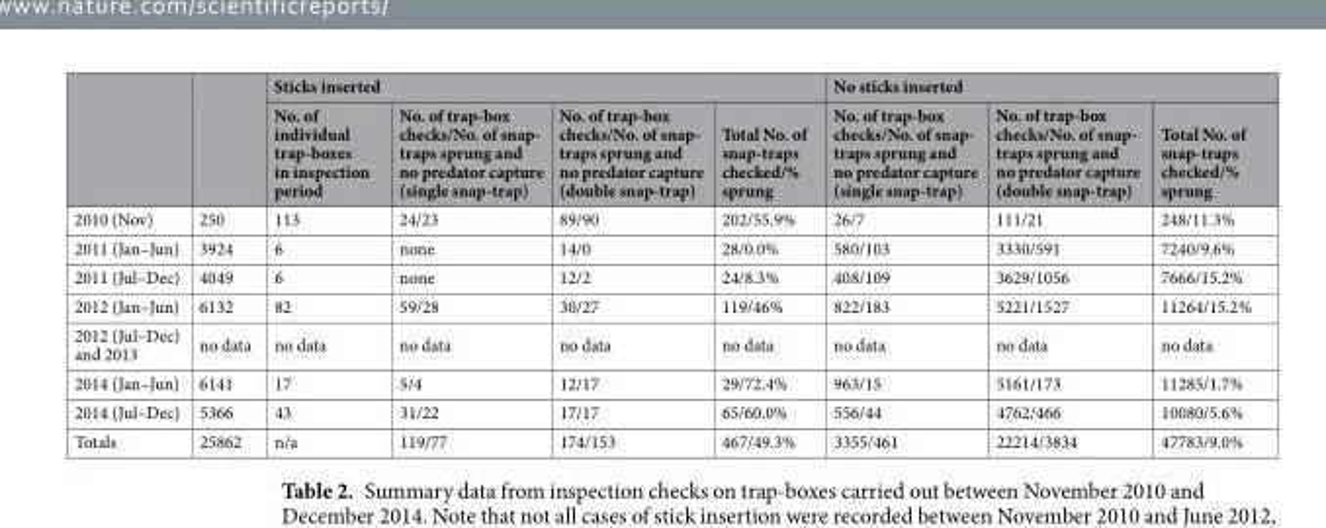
<table><thead><tr><td rowspan="2"></td><td rowspan="2"></td><td colspan="4">Sticks inserted</td><td colspan="3">No sticks inserted</td></tr><tr><td>No. of individual trap-boxes in inspection period</td><td>No. of trap-box checks/No. of snap- traps sprung and no predator capture (single snap-trap)</td><td>No. of trap-box checks/No. of snap- traps sprung and no predator capture (double snap-trap)</td><td>Total No. of snap-traps checked/% sprung</td><td>No. of trap-box checks/No. of snap- traps sprung and no predator capture (single snap-trap)</td><td>No. of trap-box checks/No. of snap- traps sprung and no predator capture (double snap-trap)</td><td>Total No. of snap-traps checked/% sprung</td></tr></thead><tbody><tr><td>2010 (Nov)</td><td>250</td><td>113</td><td>24/23</td><td>89/90</td><td>202/55.9%</td><td>26/7</td><td>111/21</td><td>248/11.3%</td></tr><tr><td>2011 (Jan–Jun)</td><td>3924</td><td>6</td><td>none</td><td>14/0</td><td>28/0.0%</td><td>580/103</td><td>3330/591</td><td>7240/9.6%</td></tr><tr><td>2011 (Jul–Dec)</td><td>4049</td><td>6</td><td>none</td><td>12/2</td><td>24/8.3%</td><td>408/109</td><td>3629/1056</td><td>7666/15.2%</td></tr><tr><td>2012 (Jan–Jun)</td><td>6132</td><td>82</td><td>59/28</td><td>30/27</td><td>119/46%</td><td>822/183</td><td>5221/1527</td><td>11264/15.2%</td></tr><tr><td>2012 (Jul–Dec) and 2013</td><td>no data</td><td>no data</td><td>no data</td><td>no data</td><td>no data</td><td>no data</td><td>no data</td><td>no data</td></tr><tr><td>2014 (Jan–Jun)</td><td>6141</td><td>17</td><td>5/4</td><td>12/17</td><td>29/72.4%</td><td>963/15</td><td>5161/173</td><td>11285/1.7%</td></tr><tr><td>2014 (Jul–Dec)</td><td>5366</td><td>43</td><td>31/22</td><td>17/17</td><td>65/60.0%</td><td>556/44</td><td>4762/466</td><td>10080/5.6%</td></tr><tr><td>Totals</td><td>25862</td><td>n/a</td><td>119/77</td><td>174/153</td><td>467/49.3%</td><td>3355/461</td><td>22214/3834</td><td>47783/9.0%</td></tr></tbody></table>